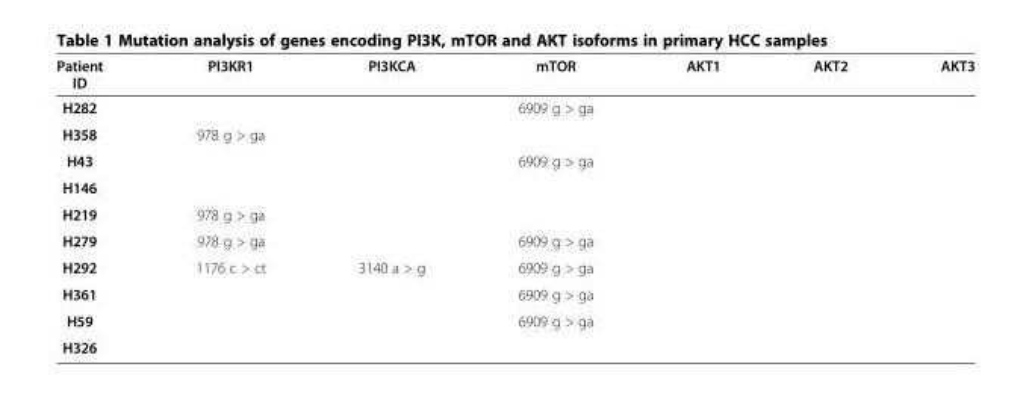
<table><thead><tr><td>Patient ID</td><td>PI3KR1</td><td>PI3KCA</td><td>mTOR</td><td>AKT1</td><td>AKT2</td><td>AKT3</td></tr></thead><tbody><tr><td>H282</td><td></td><td></td><td>6909 g &gt; ga</td><td></td><td></td><td></td></tr><tr><td>H358</td><td>978 g &gt; ga</td><td></td><td></td><td></td><td></td><td></td></tr><tr><td>H43</td><td></td><td></td><td>6909 g &gt; ga</td><td></td><td></td><td></td></tr><tr><td colspan="7">H146</td></tr><tr><td>H219</td><td>978 g &gt; ga</td><td></td><td></td><td></td><td></td><td></td></tr><tr><td>H279</td><td>978 g &gt; ga</td><td></td><td>6909 g &gt; ga</td><td></td><td></td><td></td></tr><tr><td>H292</td><td>1176 c &gt; ct</td><td>3140 a &gt; g</td><td>6909 g &gt; ga</td><td></td><td></td><td></td></tr><tr><td>H361</td><td></td><td></td><td>6909 g &gt; ga</td><td></td><td></td><td></td></tr><tr><td>H59</td><td></td><td></td><td>6909 g &gt; ga</td><td></td><td></td><td></td></tr><tr><td>H326</td><td></td><td></td><td></td><td></td><td></td><td></td></tr></tbody></table>